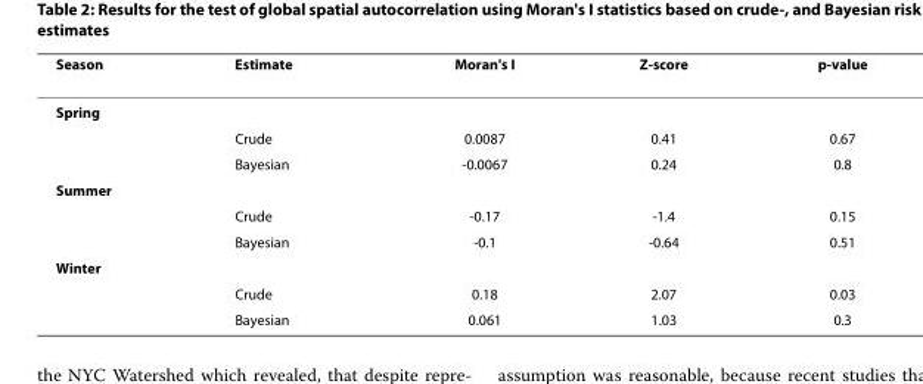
<table><thead><tr><td>Season</td><td>Estimate</td><td>Moran&#x27;s I</td><td>Z-score</td><td>p-value</td></tr></thead><tbody><tr><td colspan="5">Spring</td></tr><tr><td></td><td>Crude</td><td>0.0087</td><td>0.41</td><td>0.67</td></tr><tr><td></td><td>Bayesian</td><td>-0.0067</td><td>0.24</td><td>0.8</td></tr><tr><td colspan="5">Summer</td></tr><tr><td></td><td>Crude</td><td>-0.17</td><td>-1.4</td><td>0.15</td></tr><tr><td></td><td>Bayesian</td><td>-0.1</td><td>-0.64</td><td>0.51</td></tr><tr><td colspan="5">Winter</td></tr><tr><td></td><td>Crude</td><td>0.18</td><td>2.07</td><td>0.03</td></tr><tr><td></td><td>Bayesian</td><td>0.061</td><td>1.03</td><td>0.3</td></tr></tbody></table>